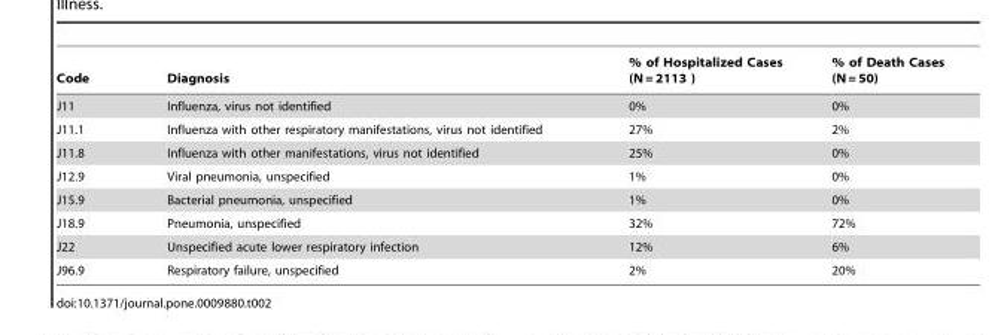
<table><thead><tr><td>Code</td><td>Diagnosis</td><td>% of Hospitalized Cases (N = 2113 )</td><td>% of Death Cases (N = 50)</td></tr></thead><tbody><tr><td>J11</td><td>Influenza, virus not identified</td><td>0%</td><td>0%</td></tr><tr><td>J11.1</td><td>Influenza with other respiratory manifestations, virus not identified</td><td>27%</td><td>2%</td></tr><tr><td>J11.8</td><td>Influenza with other manifestations, virus not identified</td><td>25%</td><td>0%</td></tr><tr><td>J12.9</td><td>Viral pneumonia, unspecified</td><td>1%</td><td>0%</td></tr><tr><td>J15.9</td><td>Bacterial pneumonia, unspecified</td><td>1%</td><td>0%</td></tr><tr><td>J18.9</td><td>Pneumonia, unspecified</td><td>32%</td><td>72%</td></tr><tr><td>J22</td><td>Unspecified acute lower respiratory infection</td><td>12%</td><td>6%</td></tr><tr><td>J96.9</td><td>Respiratory failure, unspecified</td><td>2%</td><td>20%</td></tr></tbody></table>